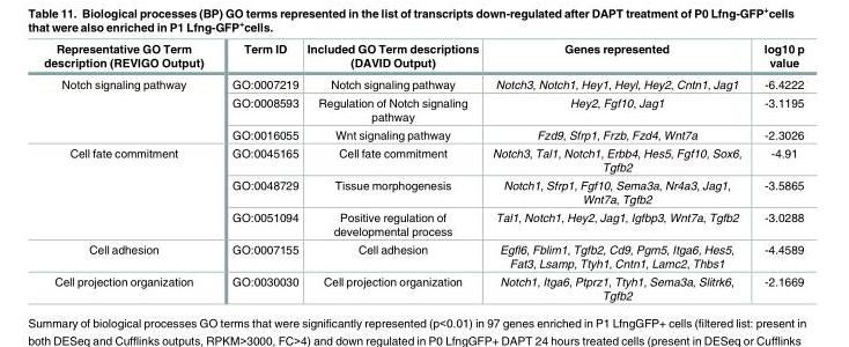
<table><thead><tr><td>Representative GO Term description (REVIGO Output)</td><td>Term ID</td><td>Included GO Term descriptions (DAVID Output)</td><td>Genes represented</td><td>log10 p value</td></tr></thead><tbody><tr><td rowspan="3">Notch signaling pathway</td><td>GO:0007219</td><td>Notch signaling pathway</td><td>Notch3, Notch1, Hey1, Heyl, Hey2, Cntn1, Jag1</td><td>-6.4222</td></tr><tr><td>GO:0008593</td><td>Regulation of Notch signaling pathway</td><td>Hey2, Fgf10, Jag1</td><td>-3.1195</td></tr><tr><td>GO:0016055</td><td>Wnt signaling pathway</td><td>Fzd9, Sfrp1, Frzb, Fzd4, Wnt7a</td><td>-2.3026</td></tr><tr><td rowspan="3">Cell fate commitment</td><td>GO:0045165</td><td>Cell fate commitment</td><td>Notch3, Tal1, Notch1, Erbb4, Hes5, Fgf10, Sox6, Tgfb2</td><td>-4.91</td></tr><tr><td>GO:0048729</td><td>Tissue morphogenesis</td><td>Notch1, Sfrp1, Fgf10, Sema3a, Nr4a3, Jag1, Wnt7a, Tgfb2</td><td>-3.5865</td></tr><tr><td>GO:0051094</td><td>Positive regulation of developmental process</td><td>Tal1, Notch1, Hey2, Jag1, Igfbp3, Wnt7a, Tgfb2</td><td>-3.0288</td></tr><tr><td>Cell adhesion</td><td>GO:0007155</td><td>Cell adhesion</td><td>Egfl6, Fblim1, Tgfb2, Cd9, Pgm5, Itga6, Hes5, Fat3, Lsamp, Ttyh1, Cntn1, Lamc2, Thbs1</td><td>-4.4589</td></tr><tr><td>Cell projection organization</td><td>GO:0030030</td><td>Cell projection organization</td><td>Notch1, Itga6, Ptprz1, Ttyh1, Sema3a, Slitrk6, Tgfb2</td><td>-2.1669</td></tr></tbody></table>